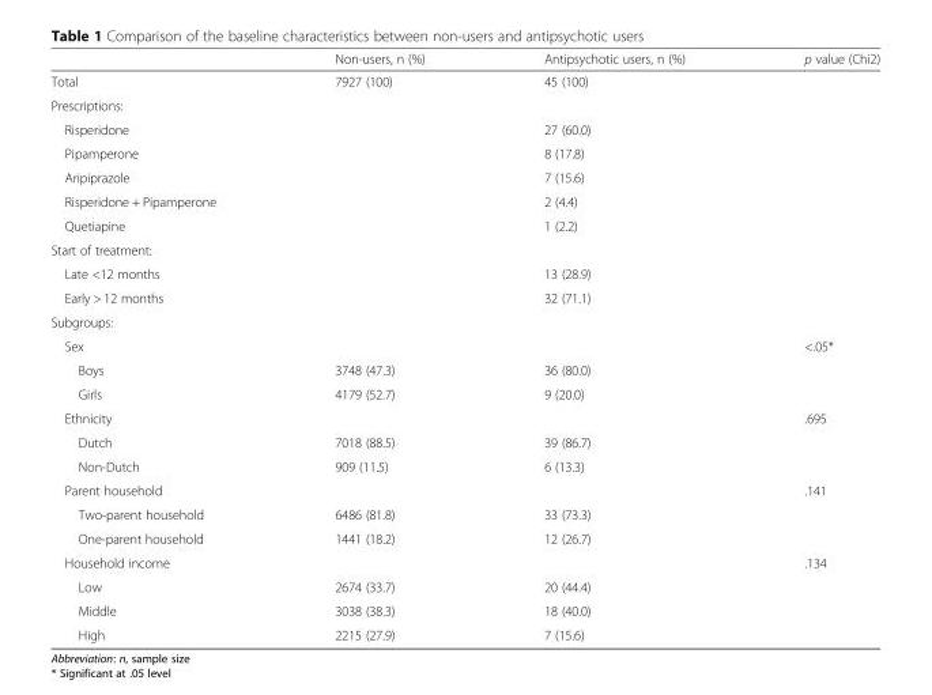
<table><thead><tr><td></td><td>Non-users, n (%)</td><td>Antipsychotic users, n (%)</td><td>p value (Chi2)</td></tr></thead><tbody><tr><td>Total</td><td>7927 (100)</td><td>45 (100)</td><td></td></tr><tr><td colspan="4">Prescriptions:</td></tr><tr><td>Risperidone</td><td></td><td>27 (60.0)</td><td></td></tr><tr><td>Pipamperone</td><td></td><td>8 (17.8)</td><td></td></tr><tr><td>Aripiprazole</td><td></td><td>7 (15.6)</td><td></td></tr><tr><td>Risperidone + Pipamperone</td><td></td><td>2 (4.4)</td><td></td></tr><tr><td>Quetiapine</td><td></td><td>1 (2.2)</td><td></td></tr><tr><td colspan="4">Start of treatment:</td></tr><tr><td>Late &lt;12 months</td><td></td><td>13 (28.9)</td><td></td></tr><tr><td>Early &gt; 12 months</td><td></td><td>32 (71.1)</td><td></td></tr><tr><td colspan="4">Subgroups:</td></tr><tr><td>Sex</td><td></td><td></td><td>&lt;.05*</td></tr><tr><td>Boys</td><td>3748 (47.3)</td><td>36 (80.0)</td><td></td></tr><tr><td>Girls</td><td>4179 (52.7)</td><td>9 (20.0)</td><td></td></tr><tr><td>Ethnicity</td><td></td><td></td><td>.695</td></tr><tr><td>Dutch</td><td>7018 (88.5)</td><td>39 (86.7)</td><td></td></tr><tr><td>Non-Dutch</td><td>909 (11.5)</td><td>6 (13.3)</td><td></td></tr><tr><td>Parent household</td><td></td><td></td><td>.141</td></tr><tr><td>Two-parent household</td><td>6486 (81.8)</td><td>33 (73.3)</td><td></td></tr><tr><td>One-parent household</td><td>1441 (18.2)</td><td>12 (26.7)</td><td></td></tr><tr><td>Household income</td><td></td><td></td><td>.134</td></tr><tr><td>Low</td><td>2674 (33.7)</td><td>20 (44.4)</td><td></td></tr><tr><td>Middle</td><td>3038 (38.3)</td><td>18 (40.0)</td><td></td></tr><tr><td>High</td><td>2215 (27.9)</td><td>7 (15.6)</td><td></td></tr></tbody></table>